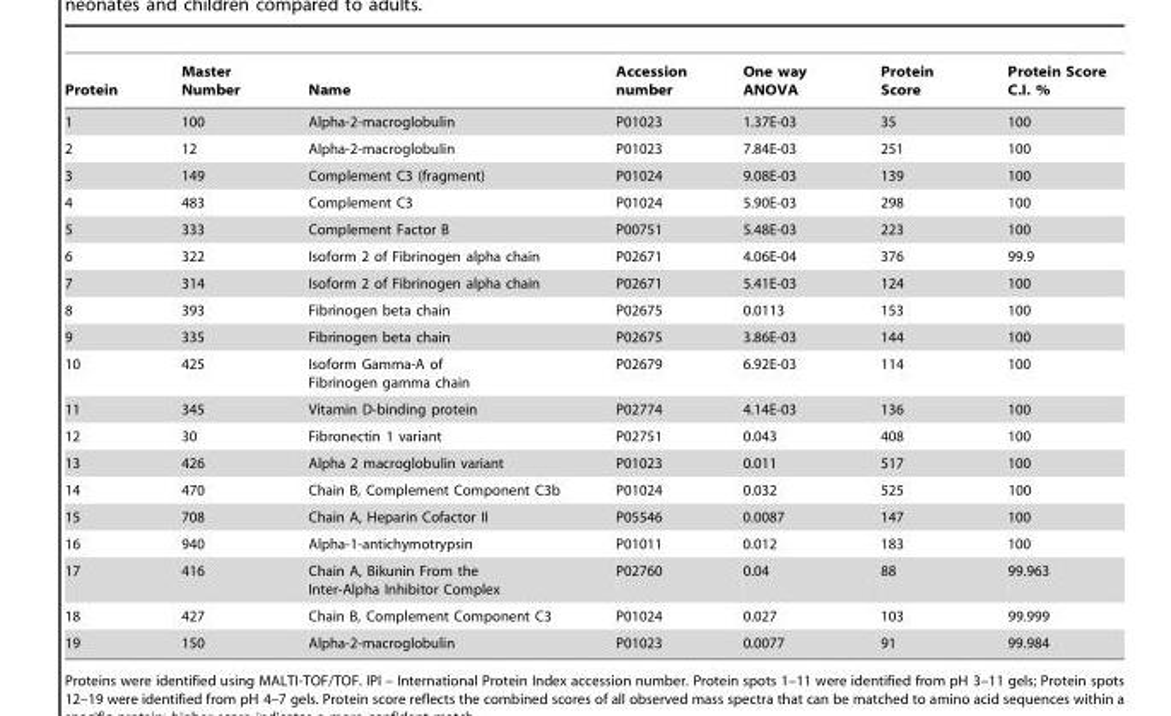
<table><thead><tr><td>Protein</td><td>Master Number</td><td>Name</td><td>Accession number</td><td>One way ANOVA</td><td>Protein Score</td><td>Protein Score C.I. %</td></tr></thead><tbody><tr><td>1</td><td>100</td><td>Alpha-2-macroglobulin</td><td>P01023</td><td>1.37E-03</td><td>35</td><td>100</td></tr><tr><td>2</td><td>12</td><td>Alpha-2-macroglobulin</td><td>P01023</td><td>7.84E-03</td><td>251</td><td>100</td></tr><tr><td>3</td><td>149</td><td>Complement C3 (fragment)</td><td>P01024</td><td>9.08E-03</td><td>139</td><td>100</td></tr><tr><td>4</td><td>483</td><td>Complement C3</td><td>P01024</td><td>5.90E-03</td><td>298</td><td>100</td></tr><tr><td>5</td><td>333</td><td>Complement Factor B</td><td>P00751</td><td>5.48E-03</td><td>223</td><td>100</td></tr><tr><td>6</td><td>322</td><td>Isoform 2 of Fibrinogen alpha chain</td><td>P02671</td><td>4.06E-04</td><td>376</td><td>99.9</td></tr><tr><td>7</td><td>314</td><td>Isoform 2 of Fibrinogen alpha chain</td><td>P02671</td><td>5.41E-03</td><td>124</td><td>100</td></tr><tr><td>8</td><td>393</td><td>Fibrinogen beta chain</td><td>P02675</td><td>0.0113</td><td>153</td><td>100</td></tr><tr><td>9</td><td>335</td><td>Fibrinogen beta chain</td><td>P02675</td><td>3.86E-03</td><td>144</td><td>100</td></tr><tr><td>10</td><td>425</td><td>Isoform Gamma-A of Fibrinogen gamma chain</td><td>P02679</td><td>6.92E-03</td><td>114</td><td>100</td></tr><tr><td>11</td><td>345</td><td>Vitamin D-binding protein</td><td>P02774</td><td>4.14E-03</td><td>136</td><td>100</td></tr><tr><td>12</td><td>30</td><td>Fibronectin 1 variant</td><td>P02751</td><td>0.043</td><td>408</td><td>100</td></tr><tr><td>13</td><td>426</td><td>Alpha 2 macroglobulin variant</td><td>P01023</td><td>0.011</td><td>517</td><td>100</td></tr><tr><td>14</td><td>470</td><td>Chain B, Complement Component C3b</td><td>P01024</td><td>0.032</td><td>525</td><td>100</td></tr><tr><td>15</td><td>708</td><td>Chain A, Heparin Cofactor II</td><td>P05546</td><td>0.0087</td><td>147</td><td>100</td></tr><tr><td>16</td><td>940</td><td>Alpha-1-antichymotrypsin</td><td>P01011</td><td>0.012</td><td>183</td><td>100</td></tr><tr><td>17</td><td>416</td><td>Chain A, Bikunin From the Inter-Alpha Inhibitor Complex</td><td>P02760</td><td>0.04</td><td>88</td><td>99.963</td></tr><tr><td>18</td><td>427</td><td>Chain B, Complement Component C3</td><td>P01024</td><td>0.027</td><td>103</td><td>99.999</td></tr><tr><td>19</td><td>150</td><td>Alpha-2-macroglobulin</td><td>P01023</td><td>0.0077</td><td>91</td><td>99.984</td></tr></tbody></table>